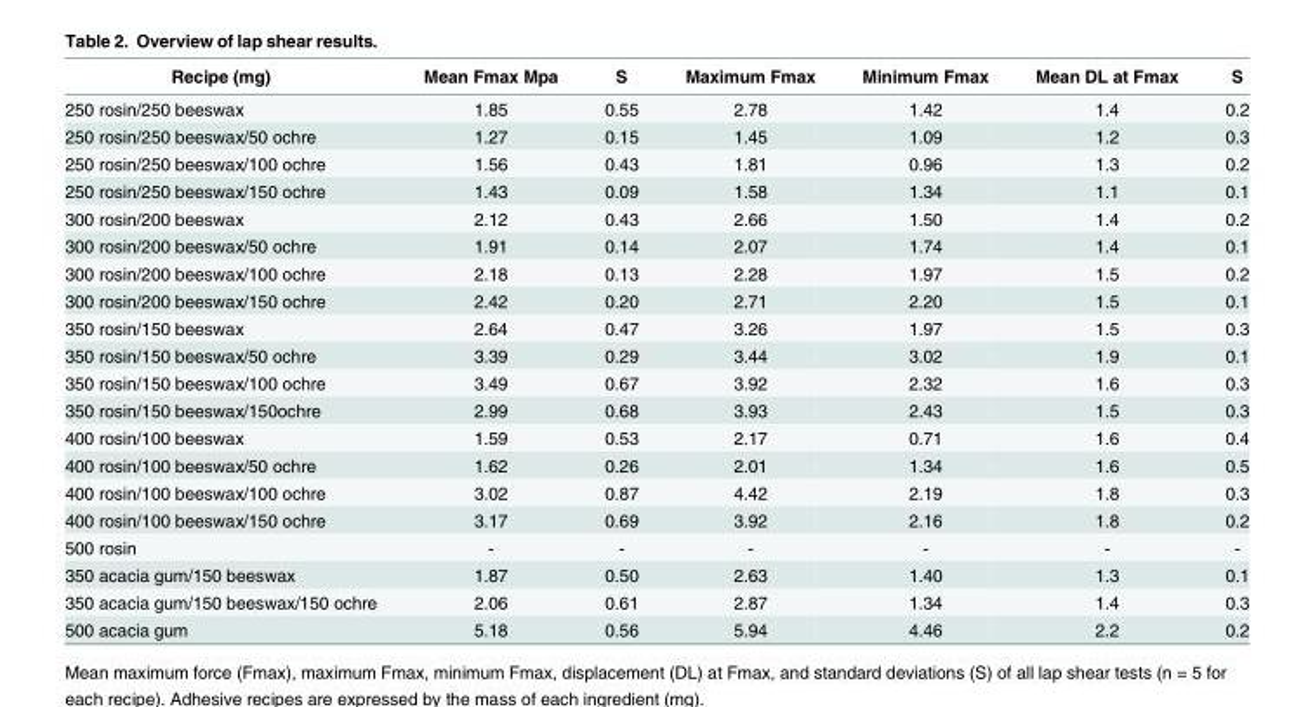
<table><thead><tr><td>Recipe (mg)</td><td>Mean Fmax Mpa</td><td>S</td><td>Maximum Fmax</td><td>Minimum Fmax</td><td>Mean DL at Fmax</td><td>S</td></tr></thead><tbody><tr><td>250 rosin/250 beeswax</td><td>1.85</td><td>0.55</td><td>2.78</td><td>1.42</td><td>1.4</td><td>0.2</td></tr><tr><td>250 rosin/250 beeswax/50 ochre</td><td>1.27</td><td>0.15</td><td>1.45</td><td>1.09</td><td>1.2</td><td>0.3</td></tr><tr><td>250 rosin/250 beeswax/100 ochre</td><td>1.56</td><td>0.43</td><td>1.81</td><td>0.96</td><td>1.3</td><td>0.2</td></tr><tr><td>250 rosin/250 beeswax/150 ochre</td><td>1.43</td><td>0.09</td><td>1.58</td><td>1.34</td><td>1.1</td><td>0.1</td></tr><tr><td>300 rosin/200 beeswax</td><td>2.12</td><td>0.43</td><td>2.66</td><td>1.50</td><td>1.4</td><td>0.2</td></tr><tr><td>300 rosin/200 beeswax/50 ochre</td><td>1.91</td><td>0.14</td><td>2.07</td><td>1.74</td><td>1.4</td><td>0.1</td></tr><tr><td>300 rosin/200 beeswax/100 ochre</td><td>2.18</td><td>0.13</td><td>2.28</td><td>1.97</td><td>1.5</td><td>0.2</td></tr><tr><td>300 rosin/200 beeswax/150 ochre</td><td>2.42</td><td>0.20</td><td>2.71</td><td>2.20</td><td>1.5</td><td>0.1</td></tr><tr><td>350 rosin/150 beeswax</td><td>2.64</td><td>0.47</td><td>3.26</td><td>1.97</td><td>1.5</td><td>0.3</td></tr><tr><td>350 rosin/150 beeswax/50 ochre</td><td>3.39</td><td>0.29</td><td>3.44</td><td>3.02</td><td>1.9</td><td>0.1</td></tr><tr><td>350 rosin/150 beeswax/100 ochre</td><td>3.49</td><td>0.67</td><td>3.92</td><td>2.32</td><td>1.6</td><td>0.3</td></tr><tr><td>350 rosin/150 beeswax/150ochre</td><td>2.99</td><td>0.68</td><td>3.93</td><td>2.43</td><td>1.5</td><td>0.3</td></tr><tr><td>400 rosin/100 beeswax</td><td>1.59</td><td>0.53</td><td>2.17</td><td>0.71</td><td>1.6</td><td>0.4</td></tr><tr><td>400 rosin/100 beeswax/50 ochre</td><td>1.62</td><td>0.26</td><td>2.01</td><td>1.34</td><td>1.6</td><td>0.5</td></tr><tr><td>400 rosin/100 beeswax/100 ochre</td><td>3.02</td><td>0.87</td><td>4.42</td><td>2.19</td><td>1.8</td><td>0.3</td></tr><tr><td>400 rosin/100 beeswax/150 ochre</td><td>3.17</td><td>0.69</td><td>3.92</td><td>2.16</td><td>1.8</td><td>0.2</td></tr><tr><td>500 rosin</td><td>-</td><td>-</td><td>-</td><td>-</td><td>-</td><td>-</td></tr><tr><td>350 acacia gum/150 beeswax</td><td>1.87</td><td>0.50</td><td>2.63</td><td>1.40</td><td>1.3</td><td>0.1</td></tr><tr><td>350 acacia gum/150 beeswax/150 ochre</td><td>2.06</td><td>0.61</td><td>2.87</td><td>1.34</td><td>1.4</td><td>0.3</td></tr><tr><td>500 acacia gum</td><td>5.18</td><td>0.56</td><td>5.94</td><td>4.46</td><td>2.2</td><td>0.2</td></tr></tbody></table>